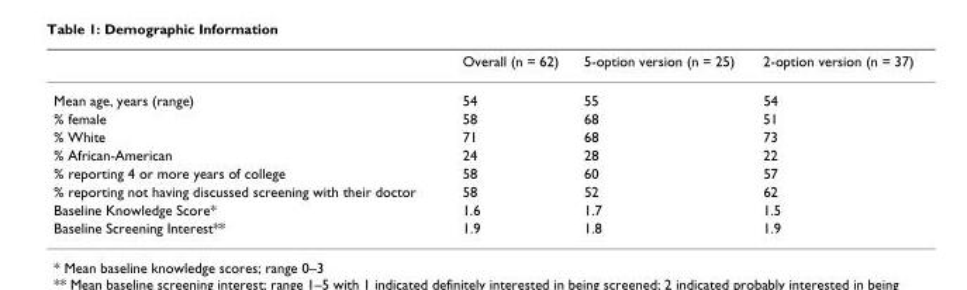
<table><thead><tr><td></td><td>Overall (n = 62)</td><td>5-option version (n = 25)</td><td>2-option version (n = 37)</td></tr></thead><tbody><tr><td>Mean age, years (range)</td><td>54</td><td>55</td><td>54</td></tr><tr><td>% female</td><td>58</td><td>68</td><td>51</td></tr><tr><td>% White</td><td>71</td><td>68</td><td>73</td></tr><tr><td>% African-American</td><td>24</td><td>28</td><td>22</td></tr><tr><td>% reporting 4 or more years of college</td><td>58</td><td>60</td><td>57</td></tr><tr><td>% reporting not having discussed screening with their doctor</td><td>58</td><td>52</td><td>62</td></tr><tr><td>Baseline Knowledge Score*</td><td>1.6</td><td>1.7</td><td>1.5</td></tr><tr><td>Baseline Screening Interest**</td><td>1.9</td><td>1.8</td><td>1.9</td></tr></tbody></table>